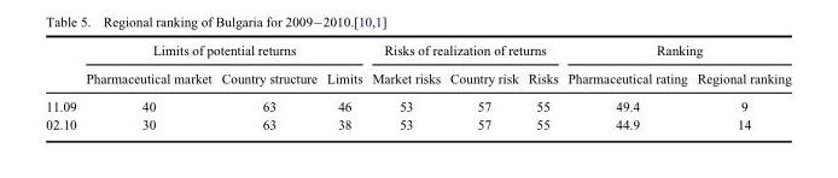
<table><thead><tr><td rowspan="2"></td><td colspan="3">Limits of potential returns</td><td colspan="3">Risks of realization of returns</td><td colspan="2">Ranking</td></tr><tr><td>Pharmaceutical market</td><td>Country structure</td><td>Limits</td><td>Market risks</td><td>Country risk</td><td>Risks</td><td>Pharmaceutical rating</td><td>Regional ranking</td></tr></thead><tbody><tr><td>11.09</td><td>40</td><td>63</td><td>46</td><td>53</td><td>57</td><td>55</td><td>49.4</td><td>9</td></tr><tr><td>02.10</td><td>30</td><td>63</td><td>38</td><td>53</td><td>57</td><td>55</td><td>44.9</td><td>14</td></tr></tbody></table>